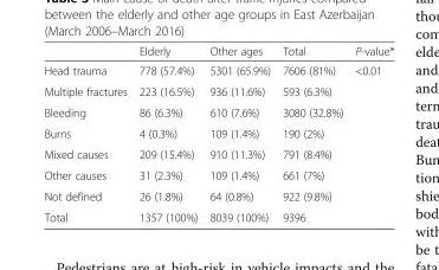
<table><thead><tr><td></td><td>Elderly</td><td>Other ages</td><td>Total</td><td>P-value*</td></tr></thead><tbody><tr><td>Head trauma</td><td>778 (57.4%)</td><td>5301 (65.9%)</td><td>7606 (81%)</td><td rowspan="7">&lt;0.01</td></tr><tr><td>Multiple fractures</td><td>223 (16.5%)</td><td>936 (11.6%)</td><td>593 (6.3%)</td></tr><tr><td>Bleeding</td><td>86 (6.3%)</td><td>610 (7.6%)</td><td>3080 (32.8%)</td></tr><tr><td>Burns</td><td>4 (0.3%)</td><td>109 (1.4%)</td><td>190 (2%)</td></tr><tr><td>Mixed causes</td><td>209 (15.4%)</td><td>910 (11.3%)</td><td>791 (8.4%)</td></tr><tr><td>Other causes</td><td>31 (2.3%)</td><td>109 (1.4%)</td><td>661 (7%)</td></tr><tr><td>Not defined</td><td>26 (1.8%)</td><td>64 (0.8%)</td><td>922 (9.8%)</td></tr><tr><td>Total</td><td>1357 (100%)</td><td>8039 (100%)</td><td>9396</td><td></td></tr></tbody></table>